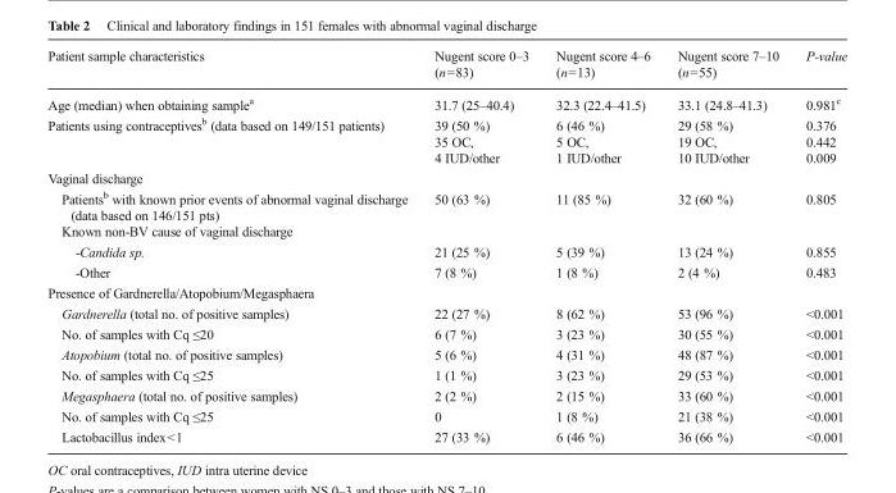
<table><thead><tr><td>Patient sample characteristics</td><td>Nugent score 0–3 (n=83)</td><td>Nugent score 4–6 (n=13)</td><td>Nugent score 7–10 (n=55)</td><td>P-value</td></tr></thead><tbody><tr><td>Age (median) when obtaining sample<sup>a</sup></td><td>31.7 (25–40.4)</td><td>32.3 (22.4–41.5)</td><td>33.1 (24.8–41.3)</td><td>0.981<sup>c</sup></td></tr><tr><td>Patients using contraceptives<sup>b</sup> (data based on 149/151 patients)</td><td>39 (50 %) 35 OC, 4 IUD/other</td><td>6 (46 %) 5 OC, 1 IUD/other</td><td>29 (58 %) 19 OC, 10 IUD/other</td><td>0.376 0.442 0.009</td></tr><tr><td colspan="5">Vaginal discharge</td></tr><tr><td>Patients<sup>b</sup> with known prior events of abnormal vaginal discharge (data based on 146/151 pts)</td><td>50 (63 %)</td><td>11 (85 %)</td><td>32 (60 %)</td><td>0.805</td></tr><tr><td colspan="5">Known non-BV cause of vaginal discharge</td></tr><tr><td>-Candida sp.</td><td>21 (25 %)</td><td>5 (39 %)</td><td>13 (24 %)</td><td>0.855</td></tr><tr><td>-Other</td><td>7 (8 %)</td><td>1 (8 %)</td><td>2 (4 %)</td><td>0.483</td></tr><tr><td colspan="5">Presence of Gardnerella/Atopobium/Megasphaera</td></tr><tr><td>Gardnerella (total no. of positive samples)</td><td>22 (27 %)</td><td>8 (62 %)</td><td>53 (96 %)</td><td>&lt;0.001</td></tr><tr><td>No. of samples with Cq ≤20</td><td>6 (7 %)</td><td>3 (23 %)</td><td>30 (55 %)</td><td>&lt;0.001</td></tr><tr><td>Atopobium (total no. of positive samples)</td><td>5 (6 %)</td><td>4 (31 %)</td><td>48 (87 %)</td><td>&lt;0.001</td></tr><tr><td>No. of samples with Cq ≤25</td><td>1 (1 %)</td><td>3 (23 %)</td><td>29 (53 %)</td><td>&lt;0.001</td></tr><tr><td>Megasphaera (total no. of positive samples)</td><td>2 (2 %)</td><td>2 (15 %)</td><td>33 (60 %)</td><td>&lt;0.001</td></tr><tr><td>No. of samples with Cq ≤25</td><td>0</td><td>1 (8 %)</td><td>21 (38 %)</td><td>&lt;0.001</td></tr><tr><td>Lactobacillus index&lt;1</td><td>27 (33 %)</td><td>6 (46 %)</td><td>36 (66 %)</td><td>&lt;0.001</td></tr></tbody></table>